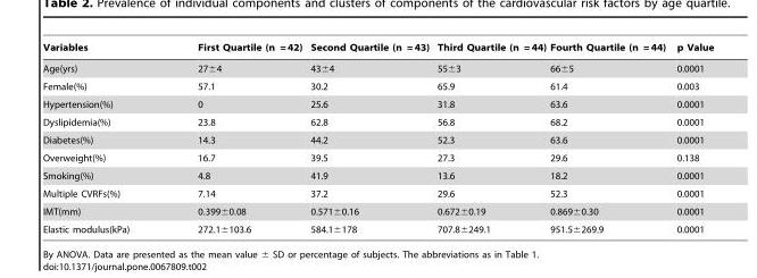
<table><thead><tr><td>Variables</td><td>First Quartile (n = 42)</td><td>Second Quartile (n = 43)</td><td>Third Quartile (n = 44)</td><td>Fourth Quartile (n = 44)</td><td>p Value</td></tr></thead><tbody><tr><td>Age(yrs)</td><td>27±4</td><td>43±4</td><td>55±3</td><td>66±5</td><td>0.0001</td></tr><tr><td>Female(%)</td><td>57.1</td><td>30.2</td><td>65.9</td><td>61.4</td><td>0.003</td></tr><tr><td>Hypertension(%)</td><td>0</td><td>25.6</td><td>31.8</td><td>63.6</td><td>0.0001</td></tr><tr><td>Dyslipidemia(%)</td><td>23.8</td><td>62.8</td><td>56.8</td><td>68.2</td><td>0.0001</td></tr><tr><td>Diabetes(%)</td><td>14.3</td><td>44.2</td><td>52.3</td><td>63.6</td><td>0.0001</td></tr><tr><td>Overweight(%)</td><td>16.7</td><td>39.5</td><td>27.3</td><td>29.6</td><td>0.138</td></tr><tr><td>Smoking(%)</td><td>4.8</td><td>41.9</td><td>13.6</td><td>18.2</td><td>0.0001</td></tr><tr><td>Multiple CVRFs(%)</td><td>7.14</td><td>37.2</td><td>29.6</td><td>52.3</td><td>0.0001</td></tr><tr><td>IMT(mm)</td><td>0.399±0.08</td><td>0.571±0.16</td><td>0.672±0.19</td><td>0.869±0.30</td><td>0.0001</td></tr><tr><td>Elastic modulus(kPa)</td><td>272.1±103.6</td><td>584.1±178</td><td>707.8±249.1</td><td>951.5±269.9</td><td>0.0001</td></tr></tbody></table>